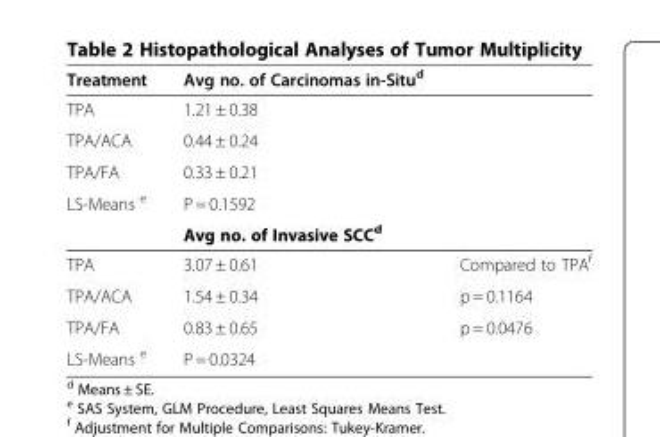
<table><thead><tr><td>Treatment</td><td>Avg no. of Carcinomas in-Situ<sup>d</sup></td><td></td></tr></thead><tbody><tr><td>TPA</td><td>1.21 ± 0.38</td><td></td></tr><tr><td>TPA/ACA</td><td>0.44 ± 0.24</td><td></td></tr><tr><td>TPA/FA</td><td>0.33 ± 0.21</td><td></td></tr><tr><td rowspan="2">LS-Means <sup>e</sup></td><td>P = 0.1592</td><td></td></tr><tr><td>Avg no. of Invasive SCC<sup>d</sup></td><td></td></tr><tr><td>TPA</td><td>3.07 ± 0.61</td><td>Compared to TPA<sup>f</sup></td></tr><tr><td>TPA/ACA</td><td>1.54 ± 0.34</td><td>p = 0.1164</td></tr><tr><td>TPA/FA</td><td>0.83 ± 0.65</td><td>p = 0.0476</td></tr><tr><td>LS-Means <sup>e</sup></td><td>P = 0.0324</td><td></td></tr></tbody></table>